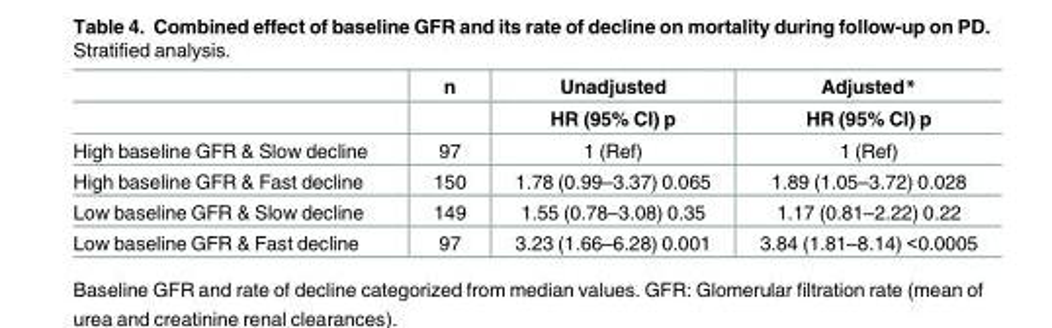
<table><thead><tr><td rowspan="2"></td><td rowspan="2">n</td><td rowspan="2">Unadjusted HR (95% CI) p</td><td rowspan="2">Adjusted* HR (95% CI) p</td></tr><tr></tr></thead><tbody><tr><td>High baseline GFR &amp; Slow decline</td><td>97</td><td>1 (Ref)</td><td>1 (Ref)</td></tr><tr><td>High baseline GFR &amp; Fast decline</td><td>150</td><td>1.78 (0.99–3.37) 0.065</td><td>1.89 (1.05–3.72) 0.028</td></tr><tr><td>Low baseline GFR &amp; Slow decline</td><td>149</td><td>1.55 (0.78–3.08) 0.35</td><td>1.17 (0.81–2.22) 0.22</td></tr><tr><td>Low baseline GFR &amp; Fast decline</td><td>97</td><td>3.23 (1.66–6.28) 0.001</td><td>3.84 (1.81–8.14) &lt;0.0005</td></tr></tbody></table>